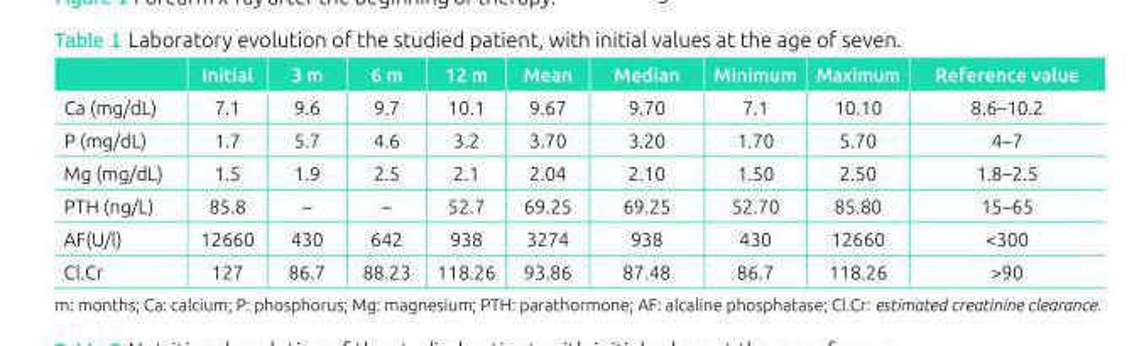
<table><thead><tr><td></td><td>Initial</td><td>3 m</td><td>6 m</td><td>12 m</td><td>Mean</td><td>Median</td><td>Minimum</td><td>Maximum</td><td>Reference value</td></tr></thead><tbody><tr><td>Ca (mg/dL)</td><td>7.1</td><td>9.6</td><td>9.7</td><td>10.1</td><td>9.67</td><td>9.70</td><td>7.1</td><td>10.10</td><td>8.6–10.2</td></tr><tr><td>P (mg/dL)</td><td>1.7</td><td>5.7</td><td>4.6</td><td>3.2</td><td>3.70</td><td>3.20</td><td>1.70</td><td>5.70</td><td>4–7</td></tr><tr><td>Mg (mg/dL)</td><td>1.5</td><td>1.9</td><td>2.5</td><td>2.1</td><td>2.04</td><td>2.10</td><td>1.50</td><td>2.50</td><td>1.8–2.5</td></tr><tr><td>PTH (ng/L)</td><td>85.8</td><td>–</td><td>–</td><td>52.7</td><td>69.25</td><td>69.25</td><td>52.70</td><td>85.80</td><td>15–65</td></tr><tr><td>AF(U/l)</td><td>12660</td><td>430</td><td>642</td><td>938</td><td>3274</td><td>938</td><td>430</td><td>12660</td><td>&lt;300</td></tr><tr><td>Cl.Cr</td><td>127</td><td>86.7</td><td>88.23</td><td>118.26</td><td>93.86</td><td>87.48</td><td>86.7</td><td>118.26</td><td>&gt;90</td></tr></tbody></table>